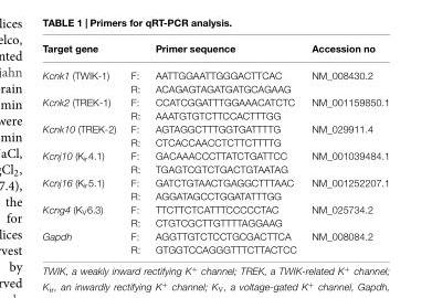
<table><thead><tr><td>Target gene</td><td></td><td>Primer sequence</td><td>Accession no</td></tr></thead><tbody><tr><td rowspan="2">Kcnk1 (TWIK-1)</td><td>F:</td><td>AATTGGAATTGGGACTTCAC</td><td>NM_008430.2</td></tr><tr><td>R:</td><td>ACAGAGTAGATGATGCAGAAG</td><td></td></tr><tr><td rowspan="2">Kcnk2 (TREK-1)</td><td>F:</td><td>CCATCGGATTTGGAAACATCTC</td><td>NM_001159850.1</td></tr><tr><td>R:</td><td>AAATGTGTCTTCCACTTTGG</td><td></td></tr><tr><td rowspan="2">Kcnk10 (TREK-2)</td><td>F:</td><td>AGTAGGCTTTGGTGATTTTG</td><td>NM_029911.4</td></tr><tr><td>R:</td><td>CTCACCAACCTCTTCTTTTG</td><td></td></tr><tr><td rowspan="2">Kcnj10 (K<sub>ir</sub>4.1)</td><td>F:</td><td>GACAAACCCTTATCTGATTCC</td><td>NM_001039484.1</td></tr><tr><td>R:</td><td>TGAGTCGTCTGACTGTAATAG</td><td></td></tr><tr><td rowspan="2">Kcnj16 (K<sub>ir</sub>5.1)</td><td>F:</td><td>GATCTGTAACTGAGGCTTTAAC</td><td>NM_001252207.1</td></tr><tr><td>R:</td><td>AGGATAGCCTGGATATTTGG</td><td></td></tr><tr><td rowspan="2">Kcng4 (K<sub>V</sub>6.3)</td><td>F:</td><td>TTCTTCTCATTTCCCCCTAC</td><td>NM_025734.2</td></tr><tr><td>R:</td><td>CTGTCGCTTGTTTTAGGAAG</td><td></td></tr><tr><td rowspan="2">Gapdh</td><td>F:</td><td>AGGTTGTCTCCTGCGACTTCA</td><td>NM_008084.2</td></tr><tr><td>R:</td><td>GTGGTCCAGGGTTTCTTACTCC</td><td></td></tr></tbody></table>